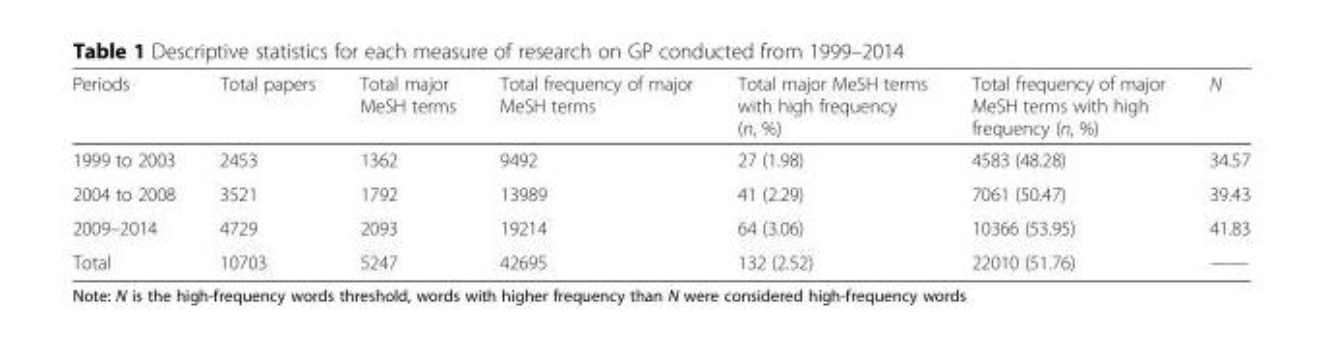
<table><thead><tr><td>Periods</td><td>Total papers</td><td>Total major MeSH terms</td><td>Total frequency of major MeSH terms</td><td>Total major MeSH terms with high frequency (n, %)</td><td>Total frequency of major MeSH terms with high frequency (n, %)</td><td>N</td></tr></thead><tbody><tr><td>1999 to 2003</td><td>2453</td><td>1362</td><td>9492</td><td>27 (1.98)</td><td>4583 (48.28)</td><td>34.57</td></tr><tr><td>2004 to 2008</td><td>3521</td><td>1792</td><td>13989</td><td>41 (2.29)</td><td>7061 (50.47)</td><td>39.43</td></tr><tr><td>2009–2014</td><td>4729</td><td>2093</td><td>19214</td><td>64 (3.06)</td><td>10366 (53.95)</td><td>41.83</td></tr><tr><td>Total</td><td>10703</td><td>5247</td><td>42695</td><td>132 (2.52)</td><td>22010 (51.76)</td><td>——</td></tr></tbody></table>